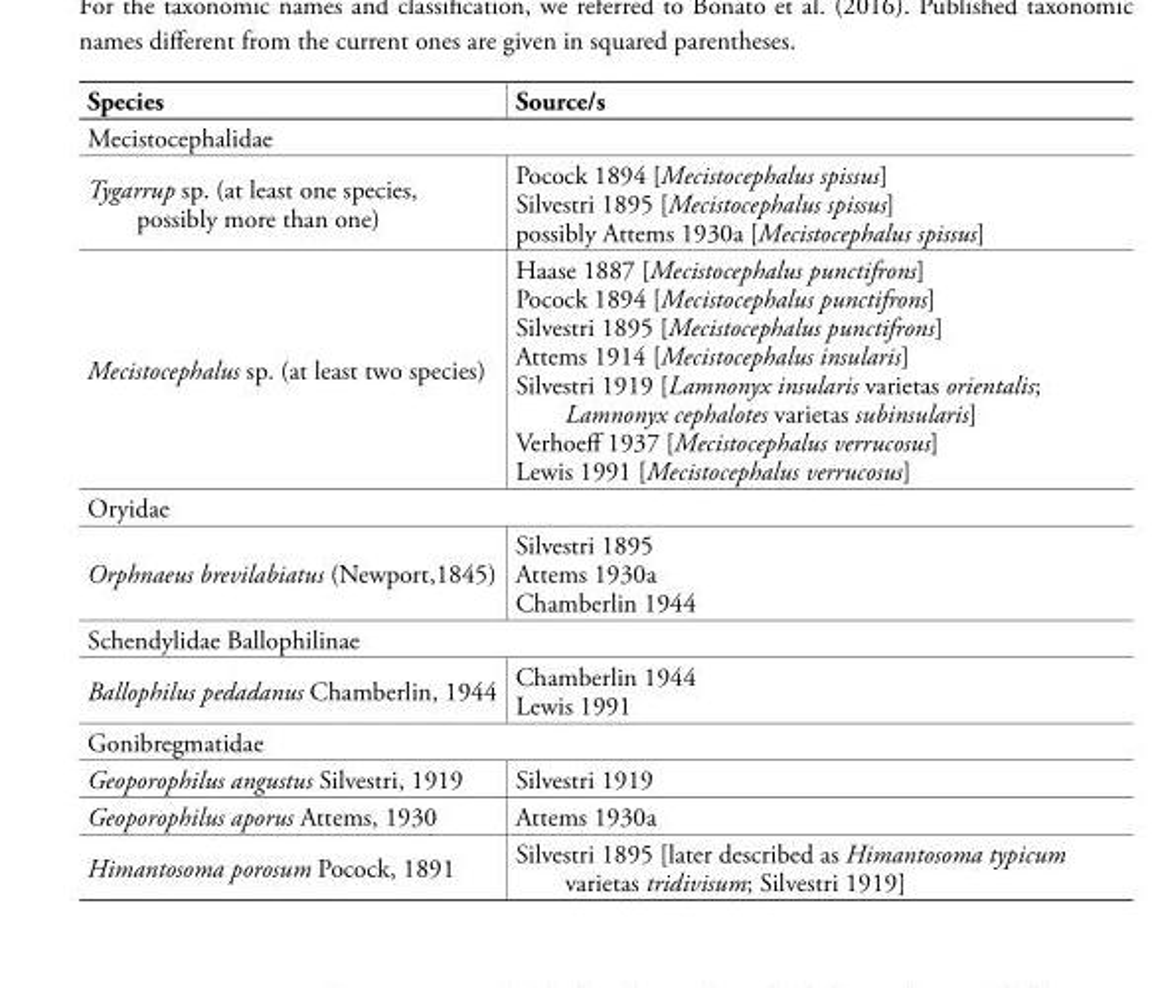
<table><thead><tr><td>Species</td><td>Source/s</td></tr></thead><tbody><tr><td colspan="2">Mecistocephalidae</td></tr><tr><td>Tygarrup sp. (at least one species, possibly more than one)</td><td>Pocock 1894 [Mecistocephalus spissus] Silvestri 1895 [Mecistocephalus spissus] possibly Attems 1930a [Mecistocephalus spissus]</td></tr><tr><td>Mecistocephalus sp. (at least two species)</td><td>Haase 1887 [Mecistocephalus punctifrons] Pocock 1894 [Mecistocephalus punctifrons] Silvestri 1895 [Mecistocephalus punctifrons] Attems 1914 [Mecistocephalus insularis] Silvestri 1919 [Lamnonyx insularis varietas orientalis; Lamnonyx cephalotes varietas subinsularis] Verhoeff 1937 [Mecistocephalus verrucosus] Lewis 1991 [Mecistocephalus verrucosus]</td></tr><tr><td colspan="2">Oryidae</td></tr><tr><td>Orphnaeus brevilabiatus (Newport,1845)</td><td>Silvestri 1895 Attems 1930a Chamberlin 1944</td></tr><tr><td colspan="2">Schendylidae Ballophilinae</td></tr><tr><td>Ballophilus pedadanus Chamberlin, 1944</td><td>Chamberlin 1944 Lewis 1991</td></tr><tr><td colspan="2">Gonibregmatidae</td></tr><tr><td>Geoporophilus angustus Silvestri, 1919</td><td>Silvestri 1919</td></tr><tr><td>Geoporophilus aporus Attems, 1930</td><td>Attems 1930a</td></tr><tr><td>Himantosoma porosum Pocock, 1891</td><td>Silvestri 1895 [later described as Himantosoma typicum varietas tridivisum; Silvestri 1919]</td></tr></tbody></table>